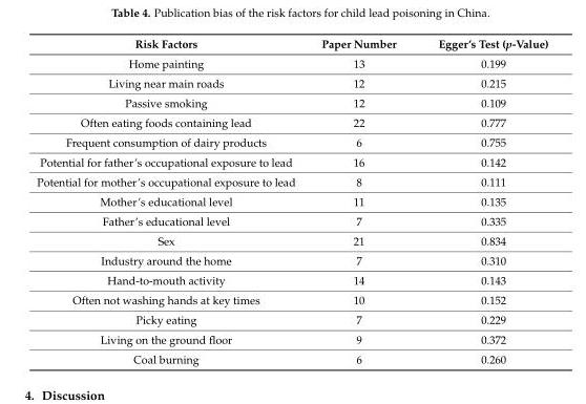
<table><thead><tr><td>Risk Factors</td><td>Paper Number</td><td>Egger’s Test (p-Value)</td></tr></thead><tbody><tr><td>Home painting</td><td>13</td><td>0.199</td></tr><tr><td>Living near main roads</td><td>12</td><td>0.215</td></tr><tr><td>Passive smoking</td><td>12</td><td>0.109</td></tr><tr><td>Often eating foods containing lead</td><td>22</td><td>0.777</td></tr><tr><td>Frequent consumption of dairy products</td><td>6</td><td>0.755</td></tr><tr><td>Potential for father’s occupational exposure to lead</td><td>16</td><td>0.142</td></tr><tr><td>Potential for mother’s occupational exposure to lead</td><td>8</td><td>0.111</td></tr><tr><td>Mother’s educational level</td><td>11</td><td>0.135</td></tr><tr><td>Father’s educational level</td><td>7</td><td>0.335</td></tr><tr><td>Sex</td><td>21</td><td>0.834</td></tr><tr><td>Industry around the home</td><td>7</td><td>0.310</td></tr><tr><td>Hand-to-mouth activity</td><td>14</td><td>0.143</td></tr><tr><td>Often not washing hands at key times</td><td>10</td><td>0.152</td></tr><tr><td>Picky eating</td><td>7</td><td>0.229</td></tr><tr><td>Living on the ground floor</td><td>9</td><td>0.372</td></tr><tr><td>Coal burning</td><td>6</td><td>0.260</td></tr></tbody></table>